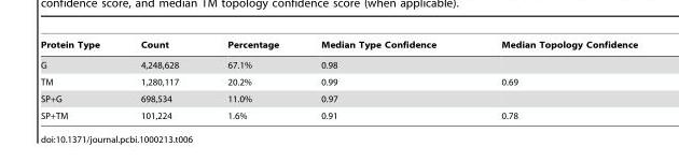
<table><thead><tr><td>Protein Type</td><td>Count</td><td>Percentage</td><td>Median Type Confidence</td><td>Median Topology Confidence</td></tr></thead><tbody><tr><td>G</td><td>4,248,628</td><td>67.1%</td><td>0.98</td><td></td></tr><tr><td>TM</td><td>1,280,117</td><td>20.2%</td><td>0.99</td><td>0.69</td></tr><tr><td>SP+G</td><td>698,534</td><td>11.0%</td><td>0.97</td><td></td></tr><tr><td>SP+TM</td><td>101,224</td><td>1.6%</td><td>0.91</td><td>0.78</td></tr></tbody></table>